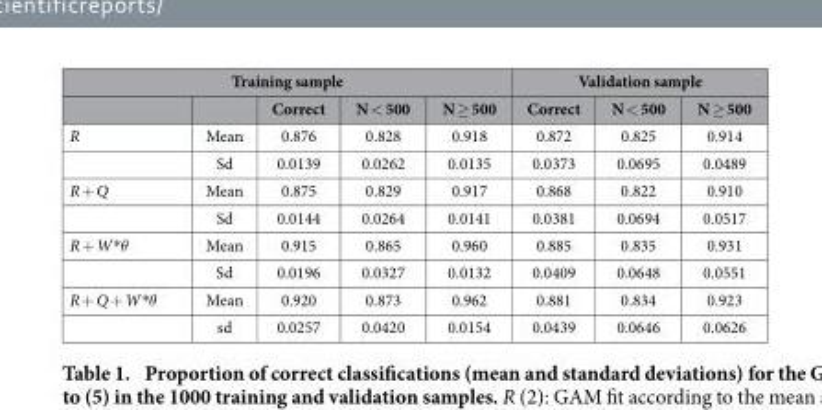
<table><thead><tr><td colspan="5">Training sample</td><td colspan="3">Validation sample</td></tr><tr><td></td><td></td><td>Correct</td><td>N &lt; 500</td><td>N ≥ 500</td><td>Correct</td><td>N &lt; 500</td><td>N ≥ 500</td></tr></thead><tbody><tr><td rowspan="2">R</td><td>Mean</td><td>0.876</td><td>0.828</td><td>0.918</td><td>0.872</td><td>0.825</td><td>0.914</td></tr><tr><td>Sd</td><td>0.0139</td><td>0.0262</td><td>0.0135</td><td>0.0373</td><td>0.0695</td><td>0.0489</td></tr><tr><td rowspan="2">R + Q</td><td>Mean</td><td>0.875</td><td>0.829</td><td>0.917</td><td>0.868</td><td>0.822</td><td>0.910</td></tr><tr><td>Sd</td><td>0.0144</td><td>0.0264</td><td>0.0141</td><td>0.0381</td><td>0.0694</td><td>0.0517</td></tr><tr><td rowspan="2">R + W*θ</td><td>Mean</td><td>0.915</td><td>0.865</td><td>0.960</td><td>0.885</td><td>0.835</td><td>0.931</td></tr><tr><td>Sd</td><td>0.0196</td><td>0.0327</td><td>0.0132</td><td>0.0409</td><td>0.0648</td><td>0.0551</td></tr><tr><td rowspan="2">R + Q + W*θ</td><td>Mean</td><td>0.920</td><td>0.873</td><td>0.962</td><td>0.881</td><td>0.834</td><td>0.923</td></tr><tr><td>sd</td><td>0.0257</td><td>0.0420</td><td>0.0154</td><td>0.0439</td><td>0.0646</td><td>0.0626</td></tr></tbody></table>